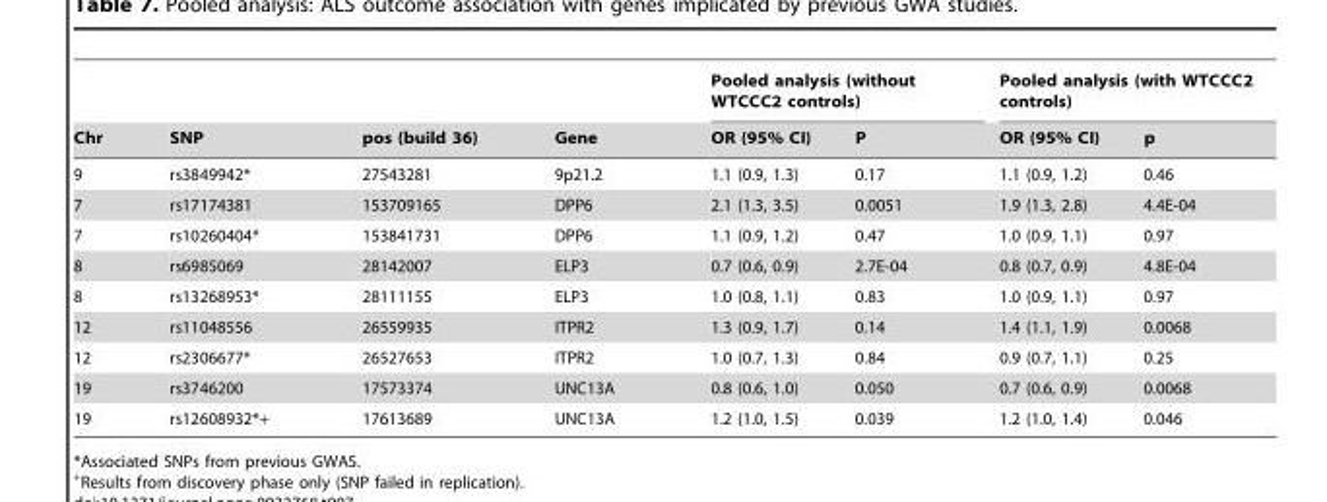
<table><thead><tr><td rowspan="2">Chr</td><td rowspan="2">SNP</td><td rowspan="2">pos (build 36)</td><td rowspan="2">Gene</td><td colspan="2">Pooled analysis (without WTCCC2 controls)</td><td colspan="2">Pooled analysis (with WTCCC2 controls)</td></tr><tr><td>OR (95% CI)</td><td>P</td><td>OR (95% CI)</td><td>p</td></tr></thead><tbody><tr><td>9</td><td>rs3849942*</td><td>27543281</td><td>9p21.2</td><td>1.1 (0.9, 1.3)</td><td>0.17</td><td>1.1 (0.9, 1.2)</td><td>0.46</td></tr><tr><td>7</td><td>rs17174381</td><td>153709165</td><td>DPP6</td><td>2.1 (1.3, 3.5)</td><td>0.0051</td><td>1.9 (1.3, 2.8)</td><td>4.4E-04</td></tr><tr><td>7</td><td>rs10260404*</td><td>153841731</td><td>DPP6</td><td>1.1 (0.9, 1.2)</td><td>0.47</td><td>1.0 (0.9, 1.1)</td><td>0.97</td></tr><tr><td>8</td><td>rs6985069</td><td>28142007</td><td>ELP3</td><td>0.7 (0.6, 0.9)</td><td>2.7E-04</td><td>0.8 (0.7, 0.9)</td><td>4.8E-04</td></tr><tr><td>8</td><td>rs13268953*</td><td>28111155</td><td>ELP3</td><td>1.0 (0.8, 1.1)</td><td>0.83</td><td>1.0 (0.9, 1.1)</td><td>0.97</td></tr><tr><td>12</td><td>rs11048556</td><td>26559935</td><td>ITPR2</td><td>1.3 (0.9, 1.7)</td><td>0.14</td><td>1.4 (1.1, 1.9)</td><td>0.0068</td></tr><tr><td>12</td><td>rs2306677*</td><td>26527653</td><td>ITPR2</td><td>1.0 (0.7, 1.3)</td><td>0.84</td><td>0.9 (0.7, 1.1)</td><td>0.25</td></tr><tr><td>19</td><td>rs3746200</td><td>17573374</td><td>UNC13A</td><td>0.8 (0.6, 1.0)</td><td>0.050</td><td>0.7 (0.6, 0.9)</td><td>0.0068</td></tr><tr><td>19</td><td>rs12608932*+</td><td>17613689</td><td>UNC13A</td><td>1.2 (1.0, 1.5)</td><td>0.039</td><td>1.2 (1.0, 1.4)</td><td>0.046</td></tr></tbody></table>